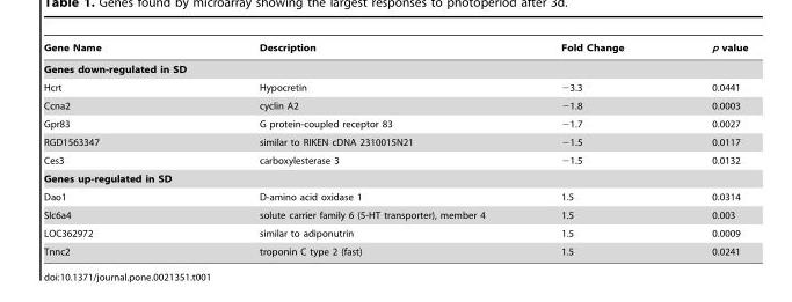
<table><thead><tr><td>Gene Name</td><td>Description</td><td>Fold Change</td><td>p value</td></tr></thead><tbody><tr><td colspan="4">Genes down-regulated in SD</td></tr><tr><td>Hcrt</td><td>Hypocretin</td><td>−3.3</td><td>0.0441</td></tr><tr><td>Ccna2</td><td>cyclin A2</td><td>−1.8</td><td>0.0003</td></tr><tr><td>Gpr83</td><td>G protein-coupled receptor 83</td><td>−1.7</td><td>0.0027</td></tr><tr><td>RGD1563347</td><td>similar to RIKEN cDNA 2310015N21</td><td>−1.5</td><td>0.0117</td></tr><tr><td>Ces3</td><td>carboxylesterase 3</td><td>−1.5</td><td>0.0132</td></tr><tr><td colspan="4">Genes up-regulated in SD</td></tr><tr><td>Dao1</td><td>D-amino acid oxidase 1</td><td>1.5</td><td>0.0314</td></tr><tr><td>Slc6a4</td><td>solute carrier family 6 (5-HT transporter), member 4</td><td>1.5</td><td>0.003</td></tr><tr><td>LOC362972</td><td>similar to adiponutrin</td><td>1.5</td><td>0.0009</td></tr><tr><td>Tnnc2</td><td>troponin C type 2 (fast)</td><td>1.5</td><td>0.0241</td></tr></tbody></table>